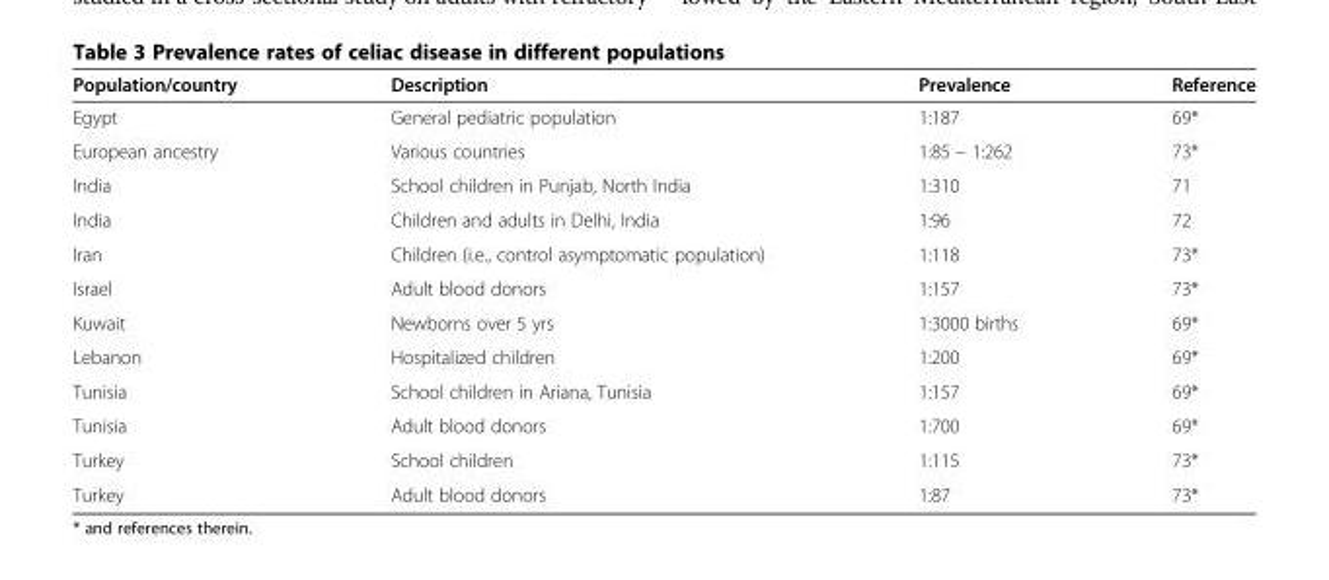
<table><thead><tr><td>Population/country</td><td>Description</td><td>Prevalence</td><td>Reference</td></tr></thead><tbody><tr><td>Egypt</td><td>General pediatric population</td><td>1:187</td><td>69*</td></tr><tr><td>European ancestry</td><td>Various countries</td><td>1:85 – 1:262</td><td>73*</td></tr><tr><td>India</td><td>School children in Punjab, North India</td><td>1:310</td><td>71</td></tr><tr><td>India</td><td>Children and adults in Delhi, India</td><td>1:96</td><td>72</td></tr><tr><td>Iran</td><td>Children (i.e., control asymptomatic population)</td><td>1:118</td><td>73*</td></tr><tr><td>Israel</td><td>Adult blood donors</td><td>1:157</td><td>73*</td></tr><tr><td>Kuwait</td><td>Newborns over 5 yrs</td><td>1:3000 births</td><td>69*</td></tr><tr><td>Lebanon</td><td>Hospitalized children</td><td>1:200</td><td>69*</td></tr><tr><td>Tunisia</td><td>School children in Ariana, Tunisia</td><td>1:157</td><td>69*</td></tr><tr><td>Tunisia</td><td>Adult blood donors</td><td>1:700</td><td>69*</td></tr><tr><td>Turkey</td><td>School children</td><td>1:115</td><td>73*</td></tr><tr><td>Turkey</td><td>Adult blood donors</td><td>1:87</td><td>73*</td></tr></tbody></table>